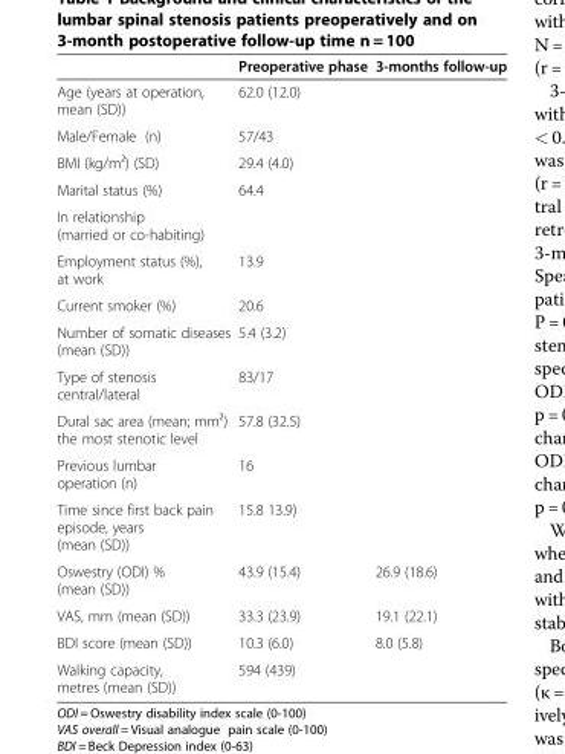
<table><thead><tr><td></td><td>Preoperative phase</td><td>3-months follow-up</td></tr></thead><tbody><tr><td>Age (years at operation, mean (SD))</td><td>62.0 (12.0)</td><td></td></tr><tr><td>Male/Female (n)</td><td>57/43</td><td></td></tr><tr><td>BMI (kg/m²) (SD)</td><td>29.4 (4.0)</td><td></td></tr><tr><td>Marital status (%)</td><td>64.4</td><td></td></tr><tr><td colspan="3">In relationship (married or co-habiting)</td></tr><tr><td>Employment status (%), at work</td><td>13.9</td><td></td></tr><tr><td>Current smoker (%)</td><td>20.6</td><td></td></tr><tr><td>Number of somatic diseases (mean (SD))</td><td>5.4 (3.2)</td><td></td></tr><tr><td>Type of stenosis central/lateral</td><td>83/17</td><td></td></tr><tr><td>Dural sac area (mean; mm²) the most stenotic level</td><td>57.8 (32.5)</td><td></td></tr><tr><td>Previous lumbar operation (n)</td><td>16</td><td></td></tr><tr><td>Time since first back pain episode, years (mean (SD))</td><td>15.8 13.9)</td><td></td></tr><tr><td>Oswestry (ODI) % (mean (SD))</td><td>43.9 (15.4)</td><td>26.9 (18.6)</td></tr><tr><td>VAS, mm (mean (SD))</td><td>33.3 (23.9)</td><td>19.1 (22.1)</td></tr><tr><td>BDI score (mean (SD))</td><td>10.3 (6.0)</td><td>8.0 (5.8)</td></tr><tr><td>Walking capacity, metres (mean (SD))</td><td>594 (439)</td><td></td></tr></tbody></table>